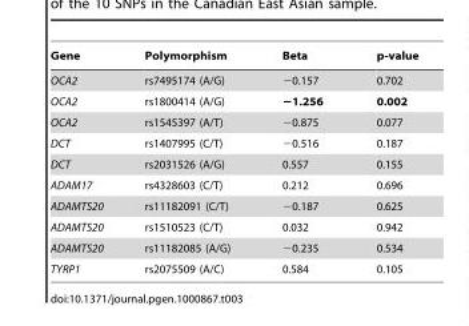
<table><thead><tr><td>Gene</td><td>Polymorphism</td><td>Beta</td><td>p-value</td></tr></thead><tbody><tr><td>OCA2</td><td>rs7495174 (A/G)</td><td>−0.157</td><td>0.702</td></tr><tr><td>OCA2</td><td>rs1800414 (A/G)</td><td>−1.256</td><td>0.002</td></tr><tr><td>OCA2</td><td>rs1545397 (A/T)</td><td>−0.875</td><td>0.077</td></tr><tr><td>DCT</td><td>rs1407995 (C/T)</td><td>−0.516</td><td>0.187</td></tr><tr><td>DCT</td><td>rs2031526 (A/G)</td><td>0.557</td><td>0.155</td></tr><tr><td>ADAM17</td><td>rs4328603 (C/T)</td><td>0.212</td><td>0.696</td></tr><tr><td>ADAMTS20</td><td>rs11182091 (C/T)</td><td>−0.187</td><td>0.625</td></tr><tr><td>ADAMTS20</td><td>rs1510523 (C/T)</td><td>0.032</td><td>0.942</td></tr><tr><td>ADAMTS20</td><td>rs11182085 (A/G)</td><td>−0.235</td><td>0.534</td></tr><tr><td>TYRP1</td><td>rs2075509 (A/C)</td><td>0.584</td><td>0.105</td></tr></tbody></table>